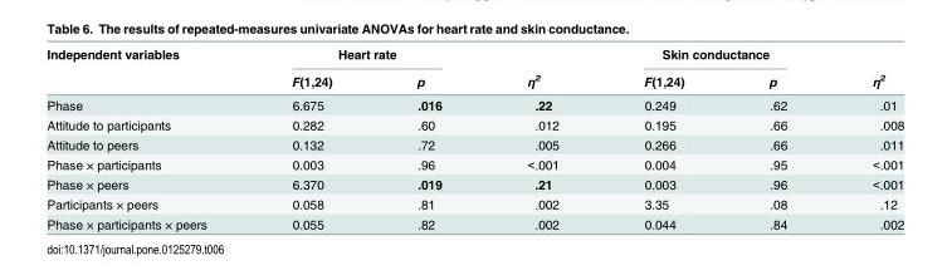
<table><thead><tr><td rowspan="2">Independent variables</td><td colspan="2">Heart rate</td><td rowspan="2">η<sup>2</sup></td><td colspan="2">Skin conductance</td><td rowspan="2">η<sup>2</sup></td></tr><tr><td>F(1,24)</td><td>p</td><td>F(1,24)</td><td>p</td></tr></thead><tbody><tr><td>Phase</td><td>6.675</td><td>.016</td><td>.22</td><td>0.249</td><td>.62</td><td>.01</td></tr><tr><td>Attitude to participants</td><td>0.282</td><td>.60</td><td>.012</td><td>0.195</td><td>.66</td><td>.008</td></tr><tr><td>Attitude to peers</td><td>0.132</td><td>.72</td><td>.005</td><td>0.266</td><td>.66</td><td>.011</td></tr><tr><td>Phase × participants</td><td>0.003</td><td>.96</td><td>&lt;.001</td><td>0.004</td><td>.95</td><td>&lt;.001</td></tr><tr><td>Phase × peers</td><td>6.370</td><td>.019</td><td>.21</td><td>0.003</td><td>.96</td><td>&lt;.001</td></tr><tr><td>Participants × peers</td><td>0.058</td><td>.81</td><td>.002</td><td>3.35</td><td>.08</td><td>.12</td></tr><tr><td>Phase × participants × peers</td><td>0.055</td><td>.82</td><td>.002</td><td>0.044</td><td>.84</td><td>.002</td></tr></tbody></table>